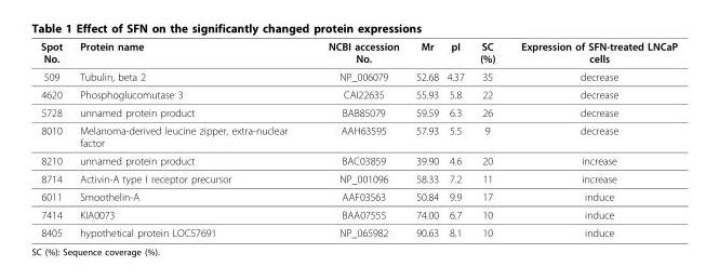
<table><thead><tr><td>Spot No.</td><td>Protein name</td><td>NCBI accession No.</td><td>Mr</td><td>pI</td><td>SC (%)</td><td>Expression of SFN-treated LNCaP cells</td></tr></thead><tbody><tr><td>509</td><td>Tubulin, beta 2</td><td>NP_006079</td><td>52.68</td><td>4.37</td><td>35</td><td>decrease</td></tr><tr><td>4620</td><td>Phosphoglucomutase 3</td><td>CAI22635</td><td>55.93</td><td>5.8</td><td>22</td><td>decrease</td></tr><tr><td>5728</td><td>unnamed protein product</td><td>BAB85079</td><td>59.59</td><td>6.3</td><td>26</td><td>decrease</td></tr><tr><td>8010</td><td>Melanoma-derived leucine zipper, extra-nuclear factor</td><td>AAH63595</td><td>57.93</td><td>5.5</td><td>9</td><td>decrease</td></tr><tr><td>8210</td><td>unnamed protein product</td><td>BAC03859</td><td>39.90</td><td>4.6</td><td>20</td><td>increase</td></tr><tr><td>8714</td><td>Activin-A type I receptor precursor</td><td>NP_001096</td><td>58.33</td><td>7.2</td><td>11</td><td>increase</td></tr><tr><td>6011</td><td>Smoothelin-A</td><td>AAF03563</td><td>50.84</td><td>9.9</td><td>17</td><td>induce</td></tr><tr><td>7414</td><td>KIA0073</td><td>BAA07555</td><td>74.00</td><td>6.7</td><td>10</td><td>induce</td></tr><tr><td>8405</td><td>hypothetical protein LOC57691</td><td>NP_065982</td><td>90.63</td><td>8.1</td><td>10</td><td>induce</td></tr></tbody></table>